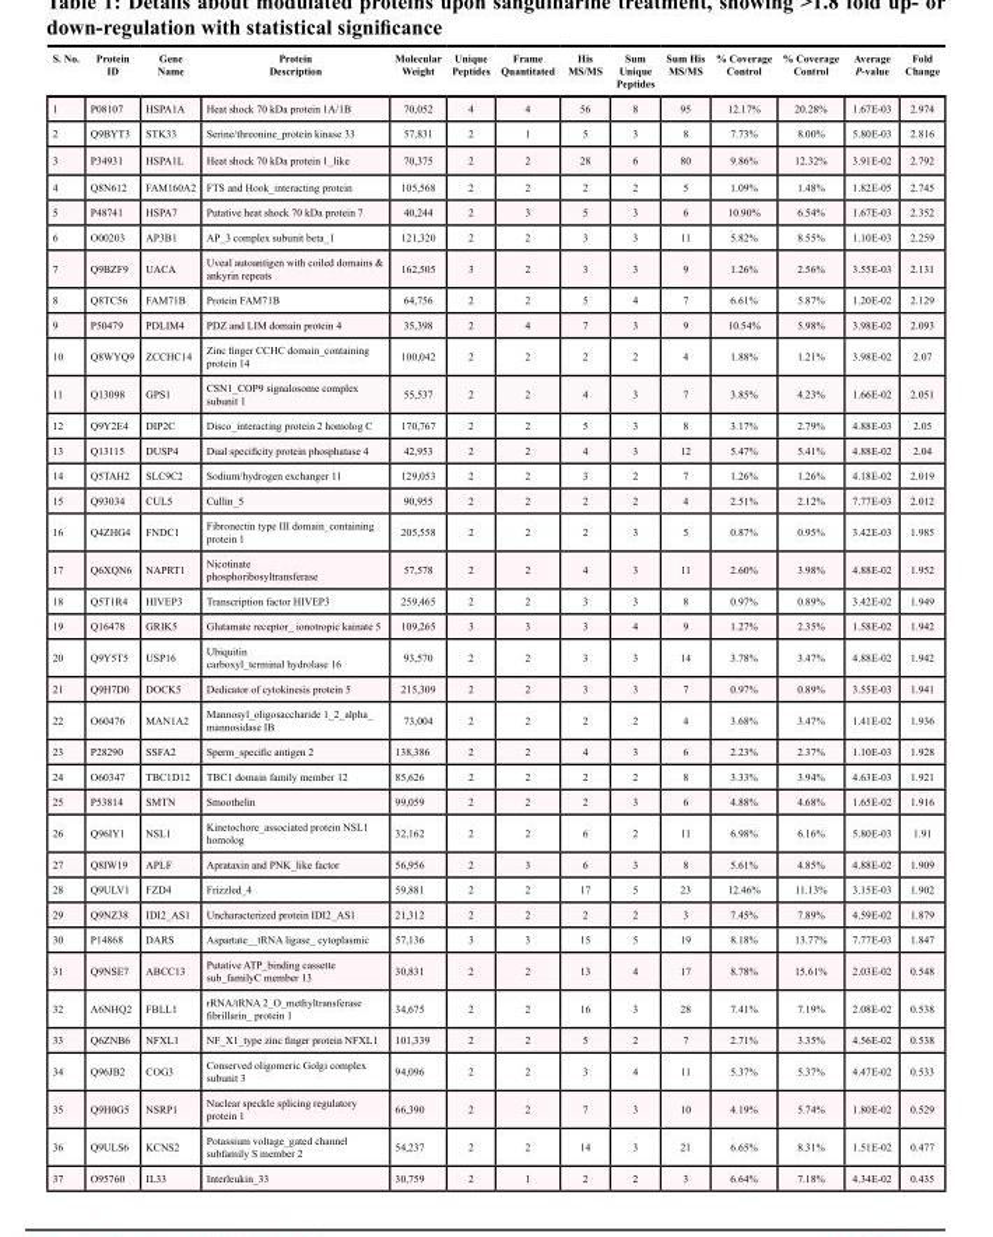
<table><thead><tr><td>S. No.</td><td>Protein ID</td><td>Gene Name</td><td>Protein Description</td><td>Molecular Weight</td><td>Unique Peptides</td><td>Frame Quantitated</td><td>His MS/MS</td><td>Sum Unique Peptides</td><td>Sum His MS/MS</td><td>% Coverage Control</td><td>% Coverage Control</td><td>Average P-value</td><td>Fold Change</td></tr></thead><tbody><tr><td>1</td><td>P08107</td><td>HSPA1A</td><td>Heat shock 70 kDa protein 1A/1B</td><td>70,052</td><td>4</td><td>4</td><td>56</td><td>8</td><td>95</td><td>12.17%</td><td>20.28%</td><td>1.67E-03</td><td>2.974</td></tr><tr><td>2</td><td>Q9BYT3</td><td>STK33</td><td>Serine/threonine_protein kinase 33</td><td>57,831</td><td>2</td><td>1</td><td>5</td><td>3</td><td>8</td><td>7.73%</td><td>8.00%</td><td>5.80E-03</td><td>2.816</td></tr><tr><td>3</td><td>P34931</td><td>HSPA1L</td><td>Heat shock 70 kDa protein 1_like</td><td>70,375</td><td>2</td><td>2</td><td>28</td><td>6</td><td>80</td><td>9.86%</td><td>12.32%</td><td>3.91E-02</td><td>2.792</td></tr><tr><td>4</td><td>Q8N612</td><td>FAM160A2</td><td>FTS and Hook_interacting protein</td><td>105,568</td><td>2</td><td>2</td><td>2</td><td>2</td><td>5</td><td>1.09%</td><td>1.48%</td><td>1.82E-05</td><td>2.745</td></tr><tr><td>5</td><td>P48741</td><td>HSPA7</td><td>Putative heat shock 70 kDa protein 7</td><td>40,244</td><td>2</td><td>3</td><td>5</td><td>3</td><td>6</td><td>10.90%</td><td>6.54%</td><td>1.67E-03</td><td>2.352</td></tr><tr><td>6</td><td>O00203</td><td>AP3B1</td><td>AP_3 complex subunit beta_1</td><td>121,320</td><td>2</td><td>2</td><td>3</td><td>3</td><td>11</td><td>5.82%</td><td>8.55%</td><td>1.10E-03</td><td>2.259</td></tr><tr><td>7</td><td>Q9BZF9</td><td>UACA</td><td>Uveal autoantigen with coiled domains &amp; ankyrin repeats</td><td>162,505</td><td>3</td><td>2</td><td>3</td><td>3</td><td>9</td><td>1.26%</td><td>2.56%</td><td>3.55E-03</td><td>2.131</td></tr><tr><td>8</td><td>Q8TC56</td><td>FAM71B</td><td>Protein FAM71B</td><td>64,756</td><td>2</td><td>2</td><td>5</td><td>4</td><td>7</td><td>6.61%</td><td>5.87%</td><td>1.20E-02</td><td>2.129</td></tr><tr><td>9</td><td>P50479</td><td>PDLIM4</td><td>PDZ and LIM domain protein 4</td><td>35,398</td><td>2</td><td>4</td><td>7</td><td>3</td><td>9</td><td>10.54%</td><td>5.98%</td><td>3.98E-02</td><td>2.093</td></tr><tr><td>10</td><td>Q8WYQ9</td><td>ZCCHC14</td><td>Zinc finger CCHC domain_containing protein 14</td><td>100,042</td><td>2</td><td>2</td><td>2</td><td>2</td><td>4</td><td>1.88%</td><td>1.21%</td><td>3.98E-02</td><td>2.07</td></tr><tr><td>11</td><td>Q13098</td><td>GPS1</td><td>CSN1_COP9 signalosome complex subunit 1</td><td>55,537</td><td>2</td><td>2</td><td>4</td><td>3</td><td>7</td><td>3.85%</td><td>4.23%</td><td>1.66E-02</td><td>2.051</td></tr><tr><td>12</td><td>Q9Y2E4</td><td>DIP2C</td><td>Disco_interacting protein 2 homolog C</td><td>170,767</td><td>2</td><td>2</td><td>5</td><td>3</td><td>8</td><td>3.17%</td><td>2.79%</td><td>4.88E-03</td><td>2.05</td></tr><tr><td>13</td><td>Q13115</td><td>DUSP4</td><td>Dual specificity protein phosphatase 4</td><td>42,953</td><td>2</td><td>2</td><td>4</td><td>3</td><td>12</td><td>5.47%</td><td>5.41%</td><td>4.88E-02</td><td>2.04</td></tr><tr><td>14</td><td>Q5TAH2</td><td>SLC9C2</td><td>Sodium/hydrogen exchanger 11</td><td>129,053</td><td>2</td><td>2</td><td>3</td><td>2</td><td>7</td><td>1.26%</td><td>1.26%</td><td>4.18E-02</td><td>2.019</td></tr><tr><td>15</td><td>Q93034</td><td>CUL5</td><td>Cullin_5</td><td>90,955</td><td>2</td><td>2</td><td>2</td><td>2</td><td>4</td><td>2.51%</td><td>2.12%</td><td>7.77E-03</td><td>2.012</td></tr><tr><td>16</td><td>Q4ZHG4</td><td>FNDC1</td><td>Fibronectin type III domain_containing protein 1</td><td>205,558</td><td>2</td><td>2</td><td>2</td><td>3</td><td>5</td><td>0.87%</td><td>0.95%</td><td>3.42E-03</td><td>1.985</td></tr><tr><td>17</td><td>Q6XQN6</td><td>NAPRT1</td><td>Nicotinate phosphoribosyltransferase</td><td>57,578</td><td>2</td><td>2</td><td>4</td><td>3</td><td>11</td><td>2.60%</td><td>3.98%</td><td>4.88E-02</td><td>1.952</td></tr><tr><td>18</td><td>Q5T1R4</td><td>HIVEP3</td><td>Transcription factor HIVEP3</td><td>259,465</td><td>2</td><td>2</td><td>3</td><td>3</td><td>8</td><td>0.97%</td><td>0.89%</td><td>3.42E-02</td><td>1.949</td></tr><tr><td>19</td><td>Q16478</td><td>GRIK5</td><td>Glutamate receptor_ ionotropic kainate 5</td><td>109,265</td><td>3</td><td>3</td><td>3</td><td>4</td><td>9</td><td>1.27%</td><td>2.35%</td><td>1.58E-02</td><td>1.942</td></tr><tr><td>20</td><td>Q9Y5T5</td><td>USP16</td><td>Ubiquitin carboxyl_terminal hydrolase 16</td><td>93,570</td><td>2</td><td>2</td><td>3</td><td>3</td><td>14</td><td>3.78%</td><td>3.47%</td><td>4.88E-02</td><td>1.942</td></tr><tr><td>21</td><td>Q9H7D0</td><td>DOCK5</td><td>Dedicator of cytokinesis protein 5</td><td>215,309</td><td>2</td><td>2</td><td>3</td><td>3</td><td>7</td><td>0.97%</td><td>0.89%</td><td>3.55E-03</td><td>1.941</td></tr><tr><td>22</td><td>O60476</td><td>MAN1A2</td><td>Mannosyl_oligosaccharide 1_2_alpha_ mannosidase IB</td><td>73,004</td><td>2</td><td>2</td><td>2</td><td>2</td><td>4</td><td>3.68%</td><td>3.47%</td><td>1.41E-02</td><td>1.936</td></tr><tr><td>23</td><td>P28290</td><td>SSFA2</td><td>Sperm_specific antigen 2</td><td>138,386</td><td>2</td><td>2</td><td>4</td><td>3</td><td>6</td><td>2.23%</td><td>2.37%</td><td>1.10E-03</td><td>1.928</td></tr><tr><td>24</td><td>O60347</td><td>TBC1D12</td><td>TBC1 domain family member 12</td><td>85,626</td><td>2</td><td>2</td><td>2</td><td>2</td><td>8</td><td>3.33%</td><td>3.94%</td><td>4.63E-03</td><td>1.921</td></tr><tr><td>25</td><td>P53814</td><td>SMTN</td><td>Smoothelin</td><td>99,059</td><td>2</td><td>2</td><td>2</td><td>3</td><td>6</td><td>4.88%</td><td>4.68%</td><td>1.65E-02</td><td>1.916</td></tr><tr><td>26</td><td>Q96IY1</td><td>NSL1</td><td>Kinetochore_associated protein NSL1 homolog</td><td>32,162</td><td>2</td><td>2</td><td>6</td><td>2</td><td>11</td><td>6.98%</td><td>6.16%</td><td>5.80E-03</td><td>1.91</td></tr><tr><td>27</td><td>Q8IW19</td><td>APLF</td><td>Aprataxin and PNK_like factor</td><td>56,956</td><td>2</td><td>3</td><td>6</td><td>3</td><td>8</td><td>5.61%</td><td>4.85%</td><td>4.88E-02</td><td>1.909</td></tr><tr><td>28</td><td>Q9ULV1</td><td>FZD4</td><td>Frizzled_4</td><td>59,881</td><td>2</td><td>2</td><td>17</td><td>5</td><td>23</td><td>12.46%</td><td>11.13%</td><td>3.15E-03</td><td>1.902</td></tr><tr><td>29</td><td>Q9NZ38</td><td>IDI2_AS1</td><td>Uncharacterized protein IDI2_AS1</td><td>21,312</td><td>2</td><td>2</td><td>2</td><td>2</td><td>3</td><td>7.45%</td><td>7.89%</td><td>4.59E-02</td><td>1.879</td></tr><tr><td>30</td><td>P14868</td><td>DARS</td><td>Aspartate__tRNA ligase_ cytoplasmic</td><td>57,136</td><td>3</td><td>3</td><td>15</td><td>5</td><td>19</td><td>8.18%</td><td>13.77%</td><td>7.77E-03</td><td>1.847</td></tr><tr><td>31</td><td>Q9NSE7</td><td>ABCC13</td><td>Putative ATP_binding cassette sub_familyC member 13</td><td>30,831</td><td>2</td><td>2</td><td>13</td><td>4</td><td>17</td><td>8.78%</td><td>15.61%</td><td>2.03E-02</td><td>0.548</td></tr><tr><td>32</td><td>A6NHQ2</td><td>FBLL1</td><td>rRNA/tRNA 2_O_methyltransferase fibrillarin_ protein 1</td><td>34,675</td><td>2</td><td>2</td><td>16</td><td>3</td><td>28</td><td>7.41%</td><td>7.19%</td><td>2.08E-02</td><td>0.538</td></tr><tr><td>33</td><td>Q6ZNB6</td><td>NFXL1</td><td>NF_X1_type zinc finger protein NFXL1</td><td>101,339</td><td>2</td><td>2</td><td>5</td><td>2</td><td>7</td><td>2.71%</td><td>3.35%</td><td>4.56E-02</td><td>0.538</td></tr><tr><td>34</td><td>Q96JB2</td><td>COG3</td><td>Conserved oligomeric Golgi complex subunit 3</td><td>94,096</td><td>2</td><td>2</td><td>3</td><td>4</td><td>11</td><td>5.37%</td><td>5.37%</td><td>4.47E-02</td><td>0.533</td></tr><tr><td>35</td><td>Q9H0G5</td><td>NSRP1</td><td>Nuclear speckle splicing regulatory protein 1</td><td>66,390</td><td>2</td><td>2</td><td>7</td><td>3</td><td>10</td><td>4.19%</td><td>5.74%</td><td>1.80E-02</td><td>0.529</td></tr><tr><td>36</td><td>Q9ULS6</td><td>KCNS2</td><td>Potassium voltage_gated channel subfamily S member 2</td><td>54,237</td><td>2</td><td>2</td><td>14</td><td>3</td><td>21</td><td>6.65%</td><td>8.31%</td><td>1.51E-02</td><td>0.477</td></tr><tr><td>37</td><td>O95760</td><td>IL33</td><td>Interleukin_33</td><td>30,759</td><td>2</td><td>1</td><td>2</td><td>2</td><td>3</td><td>6.64%</td><td>7.18%</td><td>4.34E-02</td><td>0.435</td></tr></tbody></table>